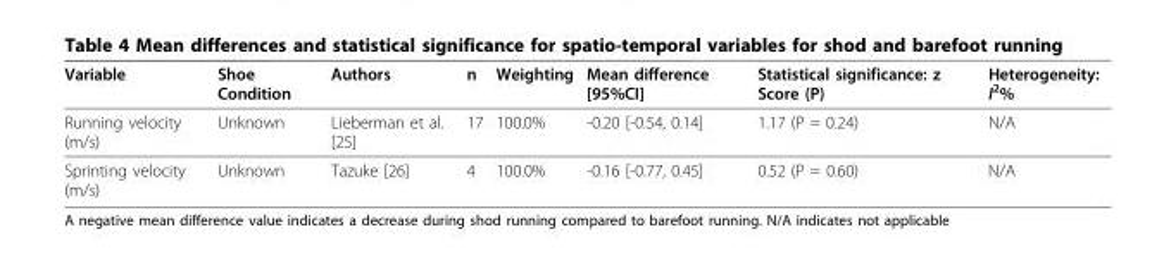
<table><thead><tr><td>Variable</td><td>Shoe Condition</td><td>Authors</td><td>n</td><td>Weighting</td><td>Mean difference [95%CI]</td><td>Statistical significance: z Score (P)</td><td>Heterogeneity: I<sup>2</sup>%</td></tr></thead><tbody><tr><td>Running velocity (m/s)</td><td>Unknown</td><td>Lieberman et al. [25]</td><td>17</td><td>100.0%</td><td>-0.20 [-0.54, 0.14]</td><td>1.17 (P = 0.24)</td><td>N/A</td></tr><tr><td>Sprinting velocity (m/s)</td><td>Unknown</td><td>Tazuke [26]</td><td>4</td><td>100.0%</td><td>-0.16 [-0.77, 0.45]</td><td>0.52 (P = 0.60)</td><td>N/A</td></tr></tbody></table>